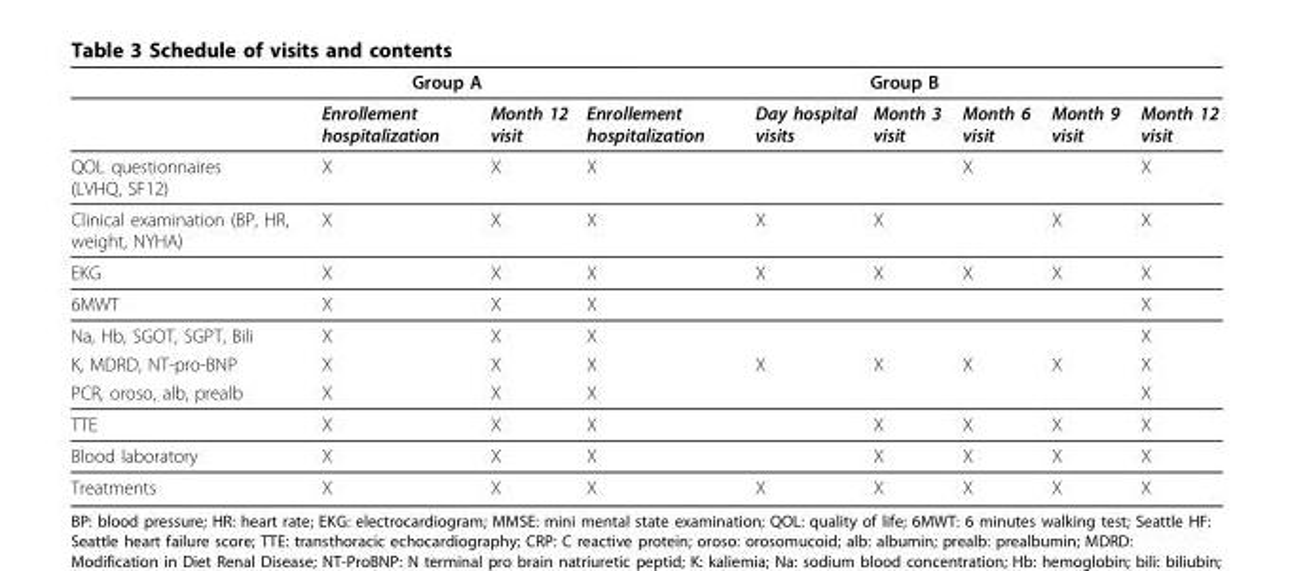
<table><thead><tr><td rowspan="2"></td><td colspan="2">Group A</td><td colspan="6">Group B</td></tr><tr><td>Enrollement hospitalization</td><td>Month 12 visit</td><td>Enrollement hospitalization</td><td>Day hospital visits</td><td>Month 3 visit</td><td>Month 6 visit</td><td>Month 9 visit</td><td>Month 12 visit</td></tr></thead><tbody><tr><td>QOL questionnaires (LVHQ, SF12)</td><td>X</td><td>X</td><td>X</td><td></td><td></td><td>X</td><td></td><td>X</td></tr><tr><td>Clinical examination (BP, HR, weight, NYHA)</td><td>X</td><td>X</td><td>X</td><td>X</td><td>X</td><td></td><td>X</td><td>X</td></tr><tr><td>EKG</td><td>X</td><td>X</td><td>X</td><td>X</td><td>X</td><td>X</td><td>X</td><td>X</td></tr><tr><td>6MWT</td><td>X</td><td>X</td><td>X</td><td></td><td></td><td></td><td></td><td>X</td></tr><tr><td>Na, Hb, SGOT, SGPT, Bili</td><td>X</td><td>X</td><td>X</td><td></td><td></td><td></td><td></td><td>X</td></tr><tr><td>K, MDRD, NT-pro-BNP</td><td>X</td><td>X</td><td>X</td><td>X</td><td>X</td><td>X</td><td>X</td><td>X</td></tr><tr><td>PCR, oroso, alb, prealb</td><td>X</td><td>X</td><td>X</td><td></td><td></td><td></td><td></td><td>X</td></tr><tr><td>TTE</td><td>X</td><td>X</td><td>X</td><td></td><td>X</td><td>X</td><td>X</td><td>X</td></tr><tr><td>Blood laboratory</td><td>X</td><td>X</td><td>X</td><td></td><td>X</td><td>X</td><td>X</td><td>X</td></tr><tr><td>Treatments</td><td>X</td><td>X</td><td>X</td><td>X</td><td>X</td><td>X</td><td>X</td><td>X</td></tr></tbody></table>